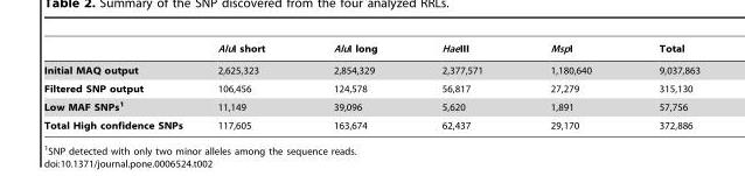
<table><thead><tr><td></td><td>AluI short</td><td>AluI long</td><td>HaeIII</td><td>MspI</td><td>Total</td></tr></thead><tbody><tr><td>Initial MAQ output</td><td>2,625,323</td><td>2,854,329</td><td>2,377,571</td><td>1,180,640</td><td>9,037,863</td></tr><tr><td>Filtered SNP output</td><td>106,456</td><td>124,578</td><td>56,817</td><td>27,279</td><td>315,130</td></tr><tr><td>Low MAF SNPs1</td><td>11,149</td><td>39,096</td><td>5,620</td><td>1,891</td><td>57,756</td></tr><tr><td>Total High confidence SNPs</td><td>117,605</td><td>163,674</td><td>62,437</td><td>29,170</td><td>372,886</td></tr></tbody></table>